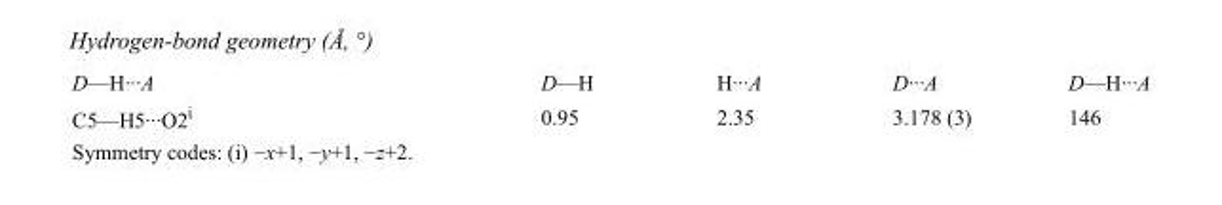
<table><tbody><tr><td>D—H···A</td><td>D—H</td><td>H···A</td><td>D···A</td><td>D—H···A</td></tr><tr><td>C5—H5···O2<sup>i</sup></td><td>0.95</td><td>2.35</td><td>3.178 (3)</td><td>146</td></tr></tbody></table>